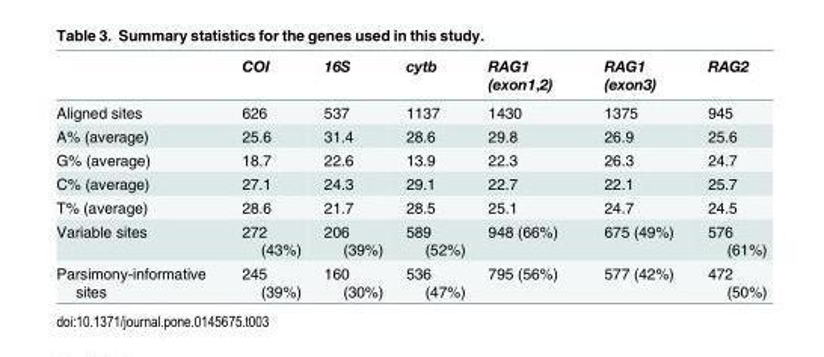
<table><thead><tr><td></td><td>COI</td><td>16S</td><td>cytb</td><td>RAG1 (exon1,2)</td><td>RAG1 (exon3)</td><td>RAG2</td></tr></thead><tbody><tr><td>Aligned sites</td><td>626</td><td>537</td><td>1137</td><td>1430</td><td>1375</td><td>945</td></tr><tr><td>A% (average)</td><td>25.6</td><td>31.4</td><td>28.6</td><td>29.8</td><td>26.9</td><td>25.6</td></tr><tr><td>G% (average)</td><td>18.7</td><td>22.6</td><td>13.9</td><td>22.3</td><td>26.3</td><td>24.7</td></tr><tr><td>C% (average)</td><td>27.1</td><td>24.3</td><td>29.1</td><td>22.7</td><td>22.1</td><td>25.7</td></tr><tr><td>T% (average)</td><td>28.6</td><td>21.7</td><td>28.5</td><td>25.1</td><td>24.7</td><td>24.5</td></tr><tr><td>Variable sites</td><td>272 (43%)</td><td>206 (39%)</td><td>589 (52%)</td><td>948 (66%)</td><td>675 (49%)</td><td>576 (61%)</td></tr><tr><td>Parsimony-informative sites</td><td>245 (39%)</td><td>160 (30%)</td><td>536 (47%)</td><td>795 (56%)</td><td>577 (42%)</td><td>472 (50%)</td></tr></tbody></table>